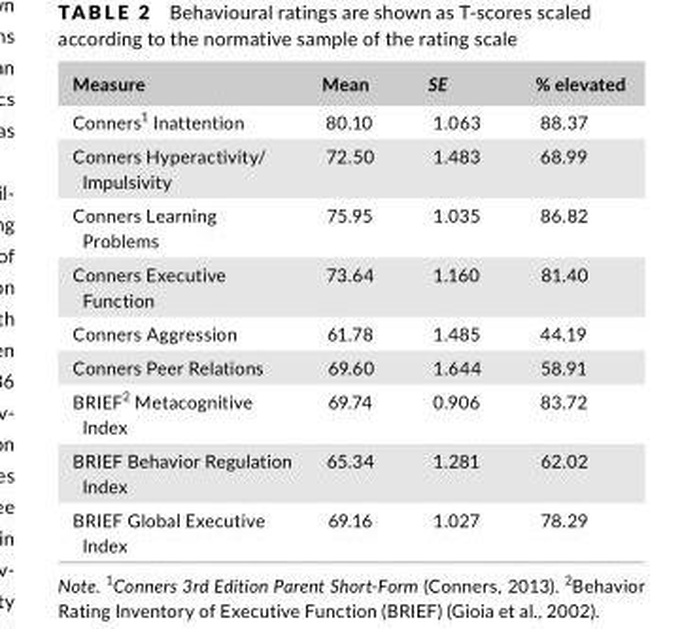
<table><thead><tr><td>Measure</td><td>Mean</td><td>SE</td><td>% elevated</td></tr></thead><tbody><tr><td>Conners<sup>1</sup> Inattention</td><td>80.10</td><td>1.063</td><td>88.37</td></tr><tr><td>Conners Hyperactivity/ Impulsivity</td><td>72.50</td><td>1.483</td><td>68.99</td></tr><tr><td>Conners Learning Problems</td><td>75.95</td><td>1.035</td><td>86.82</td></tr><tr><td>Conners Executive Function</td><td>73.64</td><td>1.160</td><td>81.40</td></tr><tr><td>Conners Aggression</td><td>61.78</td><td>1.485</td><td>44.19</td></tr><tr><td>Conners Peer Relations</td><td>69.60</td><td>1.644</td><td>58.91</td></tr><tr><td>BRIEF<sup>2</sup> Metacognitive Index</td><td>69.74</td><td>0.906</td><td>83.72</td></tr><tr><td>BRIEF Behavior Regulation Index</td><td>65.34</td><td>1.281</td><td>62.02</td></tr><tr><td>BRIEF Global Executive Index</td><td>69.16</td><td>1.027</td><td>78.29</td></tr></tbody></table>